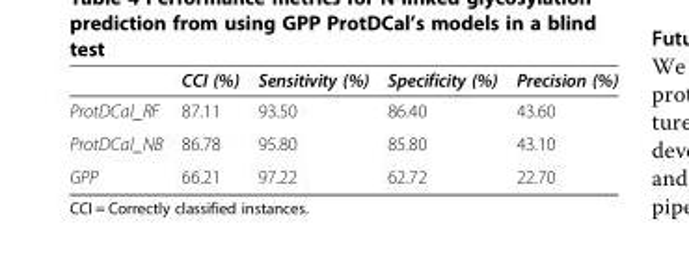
<table><thead><tr><td></td><td>CCI (%)</td><td>Sensitivity (%)</td><td>Specificity (%)</td><td>Precision (%)</td></tr></thead><tbody><tr><td>ProtDCal_RF</td><td>87.11</td><td>93.50</td><td>86.40</td><td>43.60</td></tr><tr><td>ProtDCal_NB</td><td>86.78</td><td>95.80</td><td>85.80</td><td>43.10</td></tr><tr><td>GPP</td><td>66.21</td><td>97.22</td><td>62.72</td><td>22.70</td></tr></tbody></table>